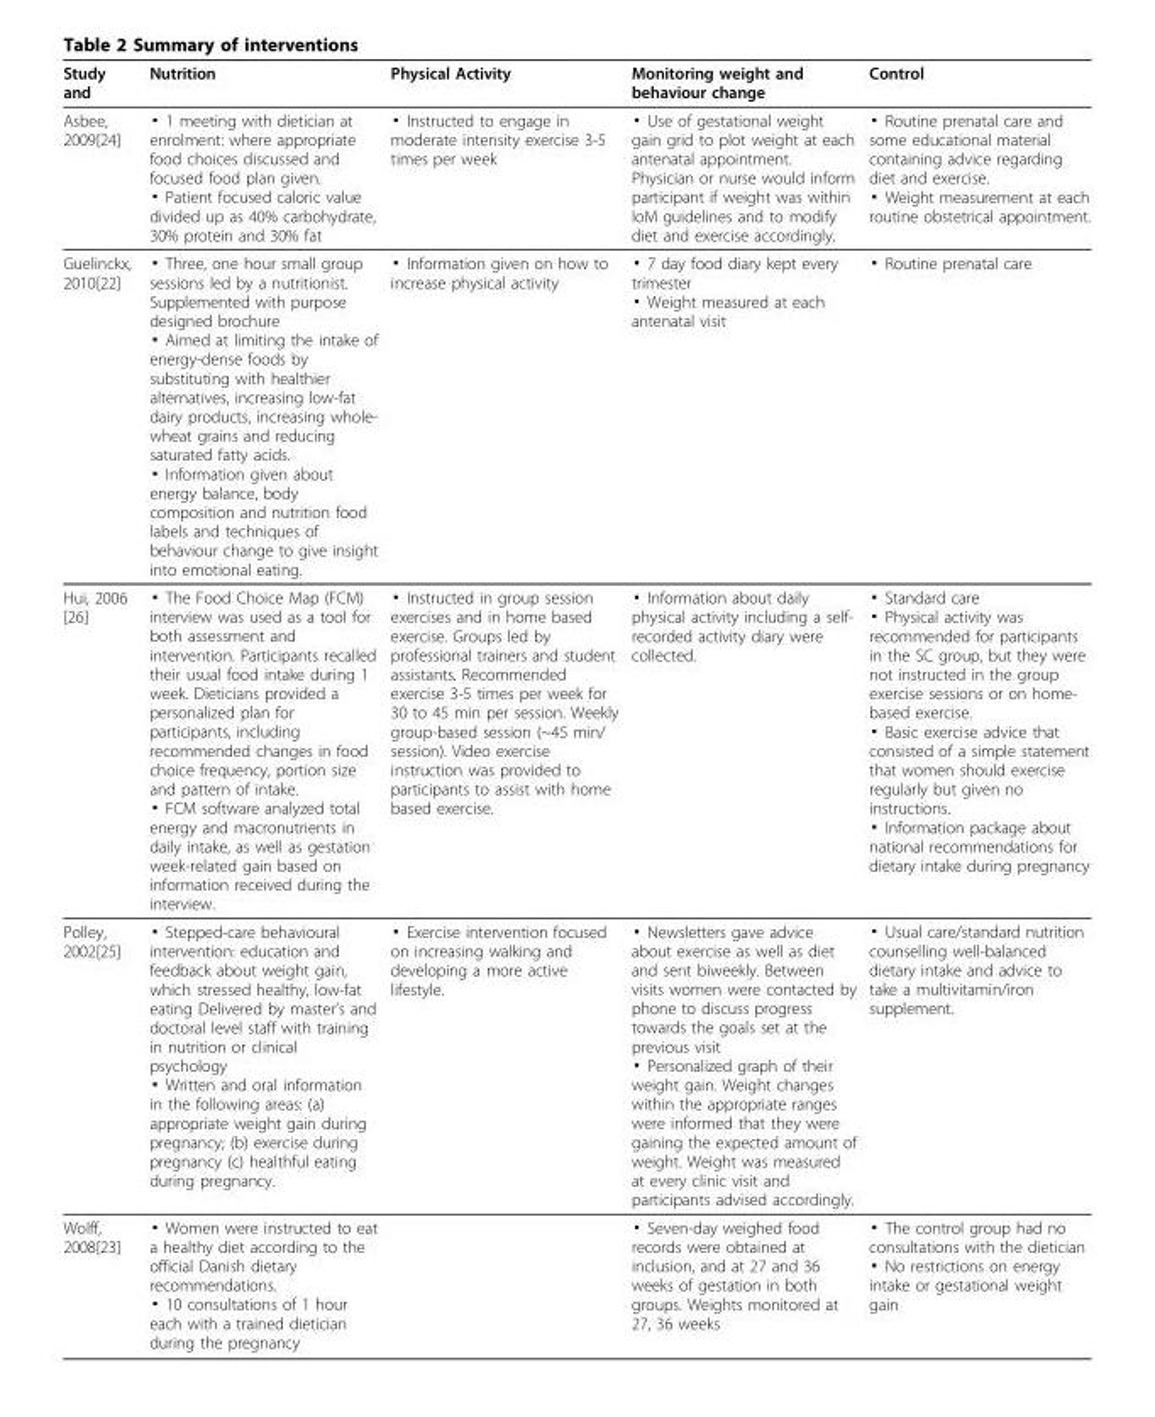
<table><thead><tr><td>Study and</td><td>Nutrition</td><td>Physical Activity</td><td>Monitoring weight and behaviour change</td><td>Control</td></tr></thead><tbody><tr><td>Asbee, 2009[24]</td><td>▪ 1 meeting with dietician at enrolment: where appropriate food choices discussed and focused food plan given. ▪ Patient focused caloric value divided up as 40% carbohydrate, 30% protein and 30% fat</td><td>▪ Instructed to engage in moderate intensity exercise 3-5 times per week</td><td>▪ Use of gestational weight gain grid to plot weight at each antenatal appointment. Physician or nurse would inform participant if weight was within IoM guidelines and to modify diet and exercise accordingly.</td><td>▪ Routine prenatal care and some educational material containing advice regarding diet and exercise. ▪ Weight measurement at each routine obstetrical appointment.</td></tr><tr><td>Guelinckx, 2010[22]</td><td>▪ Three, one hour small group sessions led by a nutritionist. Supplemented with purpose designed brochure ▪ Aimed at limiting the intake of energy-dense foods by substituting with healthier alternatives, increasing low-fat dairy products, increasing whole- wheat grains and reducing saturated fatty acids. ▪ Information given about energy balance, body composition and nutrition food labels and techniques of behaviour change to give insight into emotional eating.</td><td>▪ Information given on how to increase physical activity</td><td>▪ 7 day food diary kept every trimester ▪ Weight measured at each antenatal visit</td><td>▪ Routine prenatal care</td></tr><tr><td>Hui, 2006 [26]</td><td>▪ The Food Choice Map (FCM) interview was used as a tool for both assessment and intervention. Participants recalled their usual food intake during 1 week. Dieticians provided a personalized plan for participants, including recommended changes in food choice frequency, portion size and pattern of intake. ▪ FCM software analyzed total energy and macronutrients in daily intake, as well as gestation week-related gain based on information received during the interview.</td><td>▪ Instructed in group session exercises and in home based exercise. Groups led by professional trainers and student assistants. Recommended exercise 3-5 times per week for 30 to 45 min per session. Weekly group-based session (~45 min/ session). Video exercise instruction was provided to participants to assist with home based exercise.</td><td>▪ Information about daily physical activity including a self- recorded activity diary were collected.</td><td>▪ Standard care ▪ Physical activity was recommended for participants in the SC group, but they were not instructed in the group exercise sessions or on home- based exercise. ▪ Basic exercise advice that consisted of a simple statement that women should exercise regularly but given no instructions. ▪ Information package about national recommendations for dietary intake during pregnancy</td></tr><tr><td>Polley, 2002[25]</td><td>▪ Stepped-care behavioural intervention: education and feedback about weight gain, which stressed healthy, low-fat eating Delivered by master’s and doctoral level staff with training in nutrition or clinical psychology ▪ Written and oral information in the following areas: (a) appropriate weight gain during pregnancy; (b) exercise during pregnancy (c) healthful eating during pregnancy.</td><td>▪ Exercise intervention focused on increasing walking and developing a more active lifestyle.</td><td>▪ Newsletters gave advice about exercise as well as diet and sent biweekly. Between visits women were contacted by phone to discuss progress towards the goals set at the previous visit ▪ Personalized graph of their weight gain. Weight changes within the appropriate ranges were informed that they were gaining the expected amount of weight. Weight was measured at every clinic visit and participants advised accordingly.</td><td>▪ Usual care/standard nutrition counselling well-balanced dietary intake and advice to take a multivitamin/iron supplement.</td></tr><tr><td>Wolff, 2008[23]</td><td>▪ Women were instructed to eat a healthy diet according to the official Danish dietary recommendations. ▪ 10 consultations of 1 hour each with a trained dietician during the pregnancy</td><td></td><td>▪ Seven-day weighed food records were obtained at inclusion, and at 27 and 36 weeks of gestation in both groups. Weights monitored at 27, 36 weeks</td><td>▪ The control group had no consultations with the dietician ▪ No restrictions on energy intake or gestational weight gain</td></tr></tbody></table>